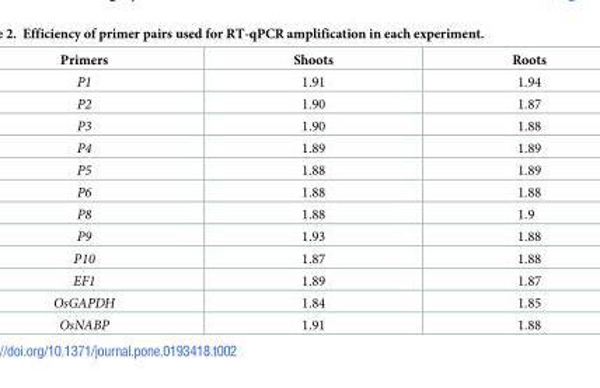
<table><thead><tr><td>Primers</td><td>Shoots</td><td>Roots</td></tr></thead><tbody><tr><td>P1</td><td>1.91</td><td>1.94</td></tr><tr><td>P2</td><td>1.90</td><td>1.87</td></tr><tr><td>P3</td><td>1.90</td><td>1.88</td></tr><tr><td>P4</td><td>1.89</td><td>1.89</td></tr><tr><td>P5</td><td>1.88</td><td>1.89</td></tr><tr><td>P6</td><td>1.88</td><td>1.88</td></tr><tr><td>P8</td><td>1.88</td><td>1.9</td></tr><tr><td>P9</td><td>1.93</td><td>1.88</td></tr><tr><td>P10</td><td>1.87</td><td>1.88</td></tr><tr><td>EF1</td><td>1.89</td><td>1.87</td></tr><tr><td>OsGAPDH</td><td>1.84</td><td>1.85</td></tr><tr><td>OsNABP</td><td>1.91</td><td>1.88</td></tr></tbody></table>